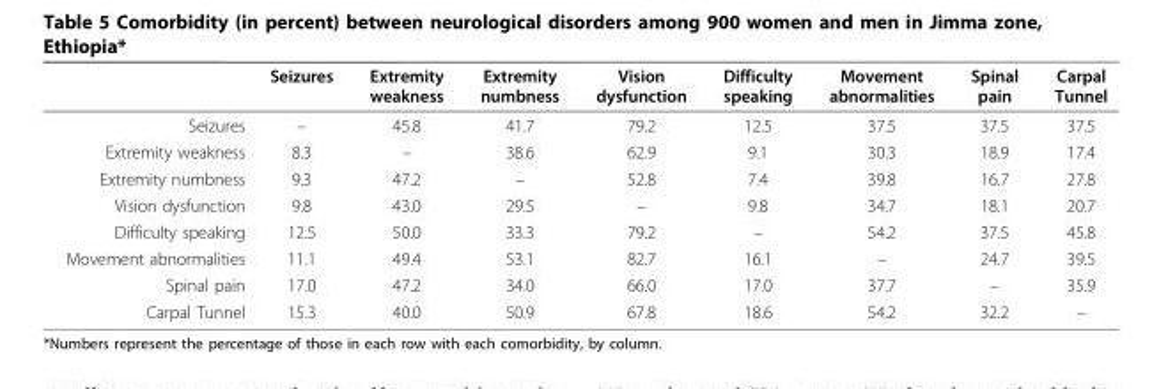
<table><thead><tr><td></td><td>Seizures</td><td>Extremity weakness</td><td>Extremity numbness</td><td>Vision dysfunction</td><td>Difficulty speaking</td><td>Movement abnormalities</td><td>Spinal pain</td><td>Carpal Tunnel</td></tr></thead><tbody><tr><td>Seizures</td><td>–</td><td>45.8</td><td>41.7</td><td>79.2</td><td>12.5</td><td>37.5</td><td>37.5</td><td>37.5</td></tr><tr><td>Extremity weakness</td><td>8.3</td><td>–</td><td>38.6</td><td>62.9</td><td>9.1</td><td>30.3</td><td>18.9</td><td>17.4</td></tr><tr><td>Extremity numbness</td><td>9.3</td><td>47.2</td><td>–</td><td>52.8</td><td>7.4</td><td>39.8</td><td>16.7</td><td>27.8</td></tr><tr><td>Vision dysfunction</td><td>9.8</td><td>43.0</td><td>29.5</td><td>–</td><td>9.8</td><td>34.7</td><td>18.1</td><td>20.7</td></tr><tr><td>Difficulty speaking</td><td>12.5</td><td>50.0</td><td>33.3</td><td>79.2</td><td>–</td><td>54.2</td><td>37.5</td><td>45.8</td></tr><tr><td>Movement abnormalities</td><td>11.1</td><td>49.4</td><td>53.1</td><td>82.7</td><td>16.1</td><td>–</td><td>24.7</td><td>39.5</td></tr><tr><td>Spinal pain</td><td>17.0</td><td>47.2</td><td>34.0</td><td>66.0</td><td>17.0</td><td>37.7</td><td>–</td><td>35.9</td></tr><tr><td>Carpal Tunnel</td><td>15.3</td><td>40.0</td><td>50.9</td><td>67.8</td><td>18.6</td><td>54.2</td><td>32.2</td><td>–</td></tr></tbody></table>